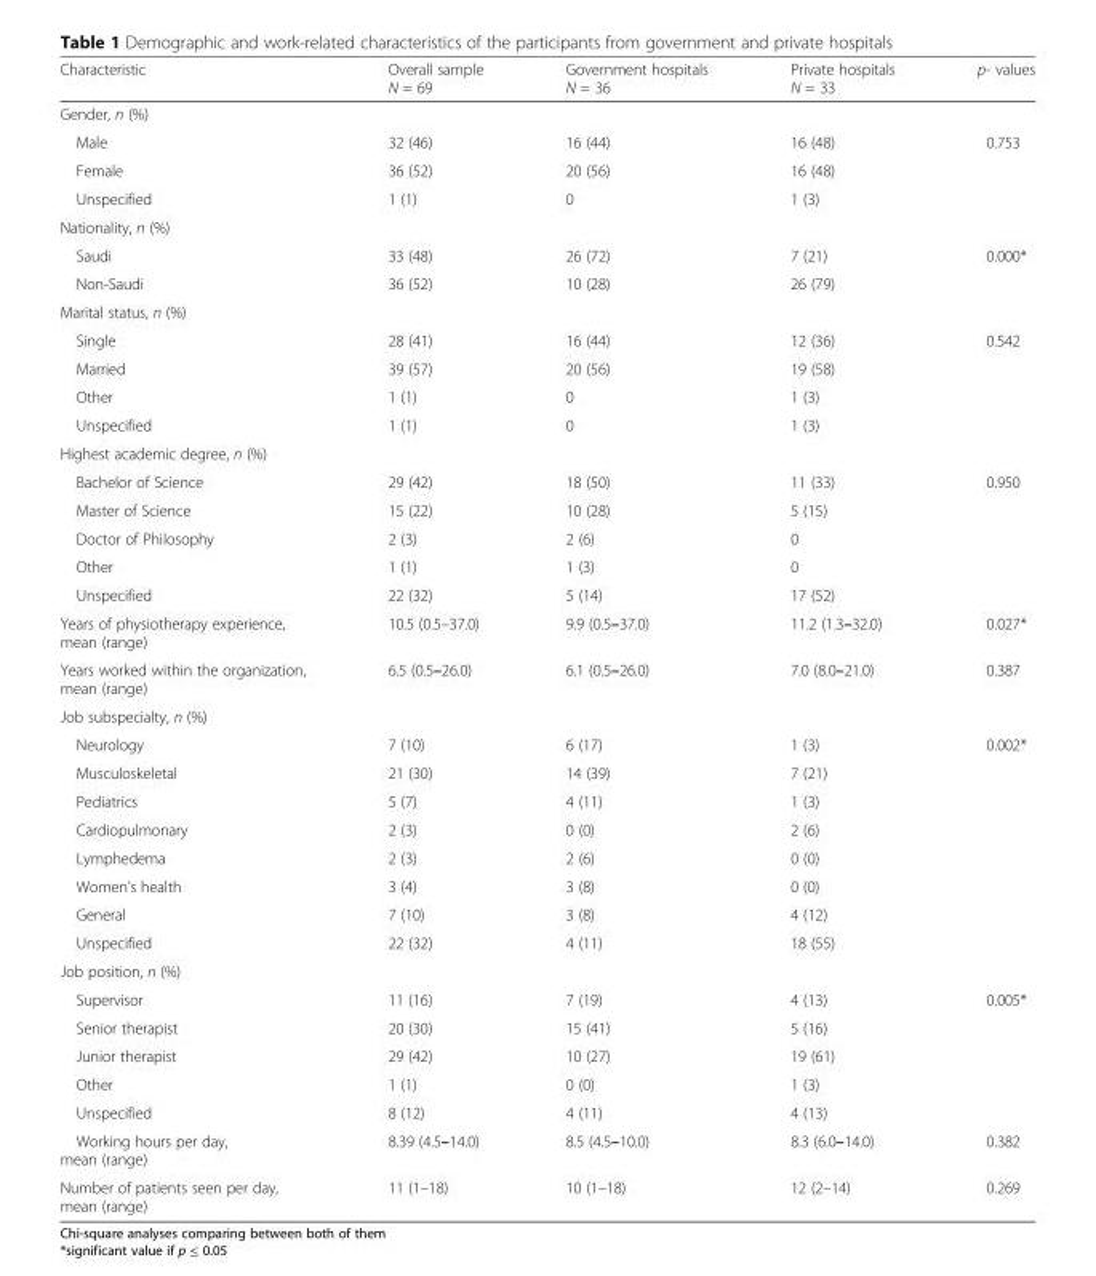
<table><thead><tr><td>Characteristic</td><td>Overall sample N = 69</td><td>Government hospitals N = 36</td><td>Private hospitals N = 33</td><td>p- values</td></tr></thead><tbody><tr><td colspan="5">Gender, n (%)</td></tr><tr><td>Male</td><td>32 (46)</td><td>16 (44)</td><td>16 (48)</td><td rowspan="3">0.753</td></tr><tr><td>Female</td><td>36 (52)</td><td>20 (56)</td><td>16 (48)</td></tr><tr><td>Unspecified</td><td>1 (1)</td><td>0</td><td>1 (3)</td></tr><tr><td colspan="5">Nationality, n (%)</td></tr><tr><td>Saudi</td><td>33 (48)</td><td>26 (72)</td><td>7 (21)</td><td rowspan="2">0.000*</td></tr><tr><td>Non-Saudi</td><td>36 (52)</td><td>10 (28)</td><td>26 (79)</td></tr><tr><td colspan="5">Marital status, n (%)</td></tr><tr><td>Single</td><td>28 (41)</td><td>16 (44)</td><td>12 (36)</td><td rowspan="4">0.542</td></tr><tr><td>Married</td><td>39 (57)</td><td>20 (56)</td><td>19 (58)</td></tr><tr><td>Other</td><td>1 (1)</td><td>0</td><td>1 (3)</td></tr><tr><td>Unspecified</td><td>1 (1)</td><td>0</td><td>1 (3)</td></tr><tr><td colspan="5">Highest academic degree, n (%)</td></tr><tr><td>Bachelor of Science</td><td>29 (42)</td><td>18 (50)</td><td>11 (33)</td><td rowspan="5">0.950</td></tr><tr><td>Master of Science</td><td>15 (22)</td><td>10 (28)</td><td>5 (15)</td></tr><tr><td>Doctor of Philosophy</td><td>2 (3)</td><td>2 (6)</td><td>0</td></tr><tr><td>Other</td><td>1 (1)</td><td>1 (3)</td><td>0</td></tr><tr><td>Unspecified</td><td>22 (32)</td><td>5 (14)</td><td>17 (52)</td></tr><tr><td>Years of physiotherapy experience, mean (range)</td><td>10.5 (0.5–37.0)</td><td>9.9 (0.5–37.0)</td><td>11.2 (1.3–32.0)</td><td>0.027*</td></tr><tr><td>Years worked within the organization, mean (range)</td><td>6.5 (0.5–26.0)</td><td>6.1 (0.5–26.0)</td><td>7.0 (8.0–21.0)</td><td>0.387</td></tr><tr><td colspan="5">Job subspecialty, n (%)</td></tr><tr><td>Neurology</td><td>7 (10)</td><td>6 (17)</td><td>1 (3)</td><td rowspan="8">0.002*</td></tr><tr><td>Musculoskeletal</td><td>21 (30)</td><td>14 (39)</td><td>7 (21)</td></tr><tr><td>Pediatrics</td><td>5 (7)</td><td>4 (11)</td><td>1 (3)</td></tr><tr><td>Cardiopulmonary</td><td>2 (3)</td><td>0 (0)</td><td>2 (6)</td></tr><tr><td>Lymphedema</td><td>2 (3)</td><td>2 (6)</td><td>0 (0)</td></tr><tr><td>Women’s health</td><td>3 (4)</td><td>3 (8)</td><td>0 (0)</td></tr><tr><td>General</td><td>7 (10)</td><td>3 (8)</td><td>4 (12)</td></tr><tr><td>Unspecified</td><td>22 (32)</td><td>4 (11)</td><td>18 (55)</td></tr><tr><td colspan="5">Job position, n (%)</td></tr><tr><td>Supervisor</td><td>11 (16)</td><td>7 (19)</td><td>4 (13)</td><td rowspan="5">0.005*</td></tr><tr><td>Senior therapist</td><td>20 (30)</td><td>15 (41)</td><td>5 (16)</td></tr><tr><td>Junior therapist</td><td>29 (42)</td><td>10 (27)</td><td>19 (61)</td></tr><tr><td>Other</td><td>1 (1)</td><td>0 (0)</td><td>1 (3)</td></tr><tr><td>Unspecified</td><td>8 (12)</td><td>4 (11)</td><td>4 (13)</td></tr><tr><td>Working hours per day, mean (range)</td><td>8.39 (4.5–14.0)</td><td>8.5 (4.5–10.0)</td><td>8.3 (6.0–14.0)</td><td>0.382</td></tr><tr><td>Number of patients seen per day, mean (range)</td><td>11 (1–18)</td><td>10 (1–18)</td><td>12 (2–14)</td><td>0.269</td></tr></tbody></table>